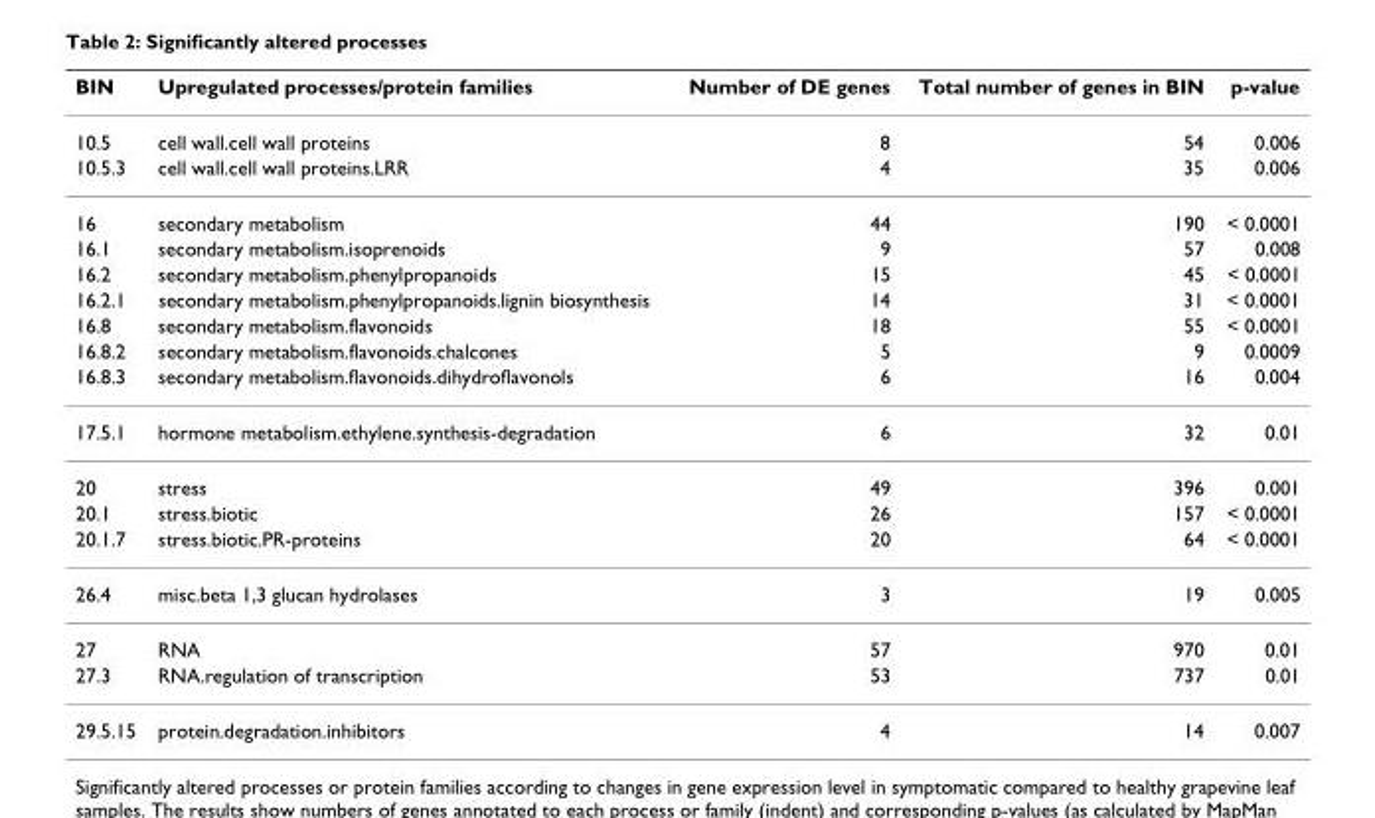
<table><thead><tr><td>BIN</td><td>Upregulated processes/protein families</td><td>Number of DE genes</td><td>Total number of genes in BIN</td><td>p-value</td></tr></thead><tbody><tr><td>10.5</td><td>cell wall.cell wall proteins</td><td>8</td><td>54</td><td>0.006</td></tr><tr><td>10.5.3</td><td>cell wall.cell wall proteins.LRR</td><td>4</td><td>35</td><td>0.006</td></tr><tr><td>16</td><td>secondary metabolism</td><td>44</td><td>190</td><td>&lt; 0.0001</td></tr><tr><td>16.1</td><td>secondary metabolism.isoprenoids</td><td>9</td><td>57</td><td>0.008</td></tr><tr><td>16.2</td><td>secondary metabolism.phenylpropanoids</td><td>15</td><td>45</td><td>&lt; 0.0001</td></tr><tr><td>16.2.1</td><td>secondary metabolism.phenylpropanoids.lignin biosynthesis</td><td>14</td><td>31</td><td>&lt; 0.0001</td></tr><tr><td>16.8</td><td>secondary metabolism.flavonoids</td><td>18</td><td>55</td><td>&lt; 0.0001</td></tr><tr><td>16.8.2</td><td>secondary metabolism.flavonoids.chalcones</td><td>5</td><td>9</td><td>0.0009</td></tr><tr><td>16.8.3</td><td>secondary metabolism.flavonoids.dihydroflavonols</td><td>6</td><td>16</td><td>0.004</td></tr><tr><td>17.5.1</td><td>hormone metabolism.ethylene.synthesis-degradation</td><td>6</td><td>32</td><td>0.01</td></tr><tr><td>20</td><td>stress</td><td>49</td><td>396</td><td>0.001</td></tr><tr><td>20.1</td><td>stress.biotic</td><td>26</td><td>157</td><td>&lt; 0.0001</td></tr><tr><td>20.1.7</td><td>stress.biotic.PR-proteins</td><td>20</td><td>64</td><td>&lt; 0.0001</td></tr><tr><td>26.4</td><td>misc.beta 1,3 glucan hydrolases</td><td>3</td><td>19</td><td>0.005</td></tr><tr><td>27</td><td>RNA</td><td>57</td><td>970</td><td>0.01</td></tr><tr><td>27.3</td><td>RNA.regulation of transcription</td><td>53</td><td>737</td><td>0.01</td></tr><tr><td>29.5.15</td><td>protein.degradation.inhibitors</td><td>4</td><td>14</td><td>0.007</td></tr></tbody></table>